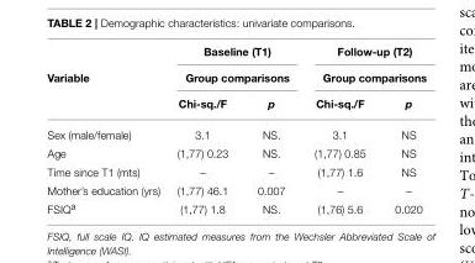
<table><thead><tr><td rowspan="3">Variable</td><td rowspan="2" colspan="2">Baseline (T1) Group comparisons</td><td rowspan="2" colspan="2">Follow-up (T2) Group comparisons</td></tr><tr></tr><tr><td>Chi-sq./F</td><td>p</td><td>Chi-sq./F</td><td>p</td></tr></thead><tbody><tr><td>Sex (male/female)</td><td>3.1</td><td>NS.</td><td>3.1</td><td>NS</td></tr><tr><td>Age</td><td>(1,77) 0.23</td><td>NS.</td><td>(1,77) 0.85</td><td>NS</td></tr><tr><td>Time since T1 (mts)</td><td>–</td><td>–</td><td>(1,77) 1.6</td><td>NS</td></tr><tr><td>Mother’s education (yrs)</td><td>(1,77) 46.1</td><td>0.007</td><td>–</td><td>–</td></tr><tr><td>FSIQ<sup>a</sup></td><td>(1,77) 1.8</td><td>NS.</td><td>(1,76) 5.6</td><td>0.020</td></tr></tbody></table>